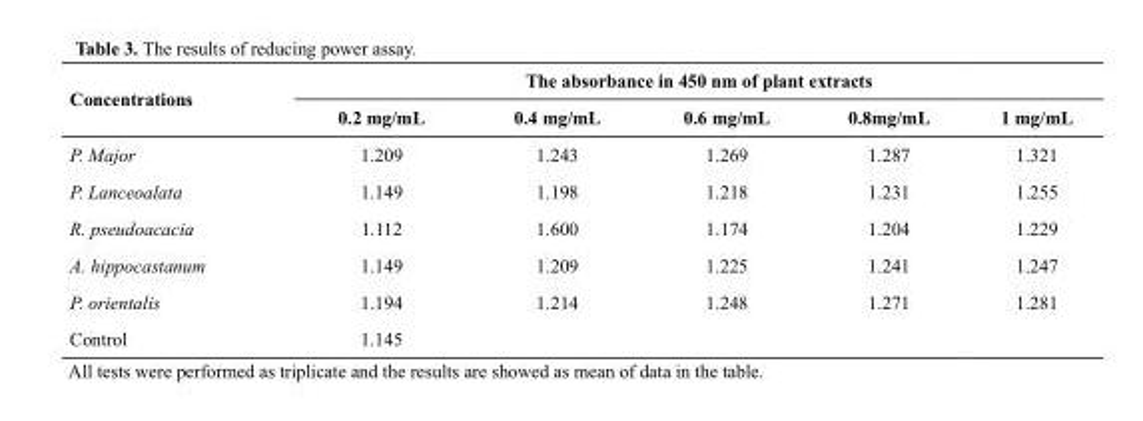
<table><thead><tr><td rowspan="2">Concentrations</td><td colspan="5">The absorbance in 450 nm of plant extracts</td></tr><tr><td>0.2 mg/mL</td><td>0.4 mg/mL</td><td>0.6 mg/mL</td><td>0.8mg/mL</td><td>1 mg/mL</td></tr></thead><tbody><tr><td>P. Major</td><td>1.209</td><td>1.243</td><td>1.269</td><td>1.287</td><td>1.321</td></tr><tr><td>P. Lanceoalata</td><td>1.149</td><td>1.198</td><td>1.218</td><td>1.231</td><td>1.255</td></tr><tr><td>R. pseudoacacia</td><td>1.112</td><td>1.600</td><td>1.174</td><td>1.204</td><td>1.229</td></tr><tr><td>A. hippocastanum</td><td>1.149</td><td>1.209</td><td>1.225</td><td>1.241</td><td>1.247</td></tr><tr><td>P. orientalis</td><td>1.194</td><td>1.214</td><td>1.248</td><td>1.271</td><td>1.281</td></tr><tr><td>Control</td><td>1.145</td><td></td><td></td><td></td><td></td></tr></tbody></table>